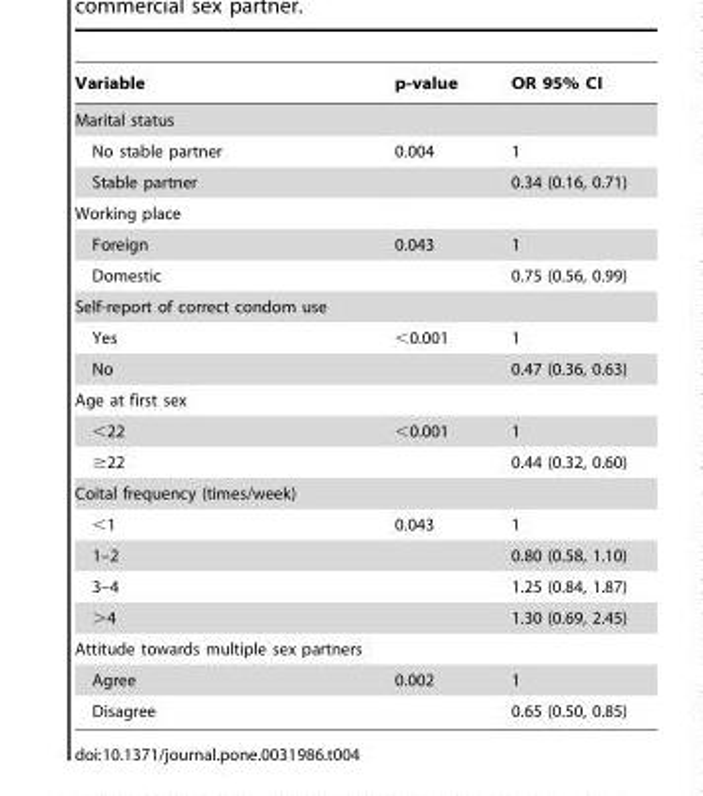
<table><thead><tr><td>Variable</td><td>p-value</td><td>OR 95% CI</td></tr></thead><tbody><tr><td colspan="3">Marital status</td></tr><tr><td>No stable partner</td><td>0.004</td><td>1</td></tr><tr><td>Stable partner</td><td></td><td>0.34 (0.16, 0.71)</td></tr><tr><td colspan="3">Working place</td></tr><tr><td>Foreign</td><td>0.043</td><td>1</td></tr><tr><td>Domestic</td><td></td><td>0.75 (0.56, 0.99)</td></tr><tr><td colspan="3">Self-report of correct condom use</td></tr><tr><td>Yes</td><td>&lt;0.001</td><td>1</td></tr><tr><td>No</td><td></td><td>0.47 (0.36, 0.63)</td></tr><tr><td colspan="3">Age at first sex</td></tr><tr><td>&lt;22</td><td>&lt;0.001</td><td>1</td></tr><tr><td>≥22</td><td></td><td>0.44 (0.32, 0.60)</td></tr><tr><td colspan="3">Coital frequency (times/week)</td></tr><tr><td>&lt;1</td><td>0.043</td><td>1</td></tr><tr><td>1–2</td><td></td><td>0.80 (0.58, 1.10)</td></tr><tr><td>3–4</td><td></td><td>1.25 (0.84, 1.87)</td></tr><tr><td>&gt;4</td><td></td><td>1.30 (0.69, 2.45)</td></tr><tr><td colspan="3">Attitude towards multiple sex partners</td></tr><tr><td>Agree</td><td>0.002</td><td>1</td></tr><tr><td>Disagree</td><td></td><td>0.65 (0.50, 0.85)</td></tr></tbody></table>